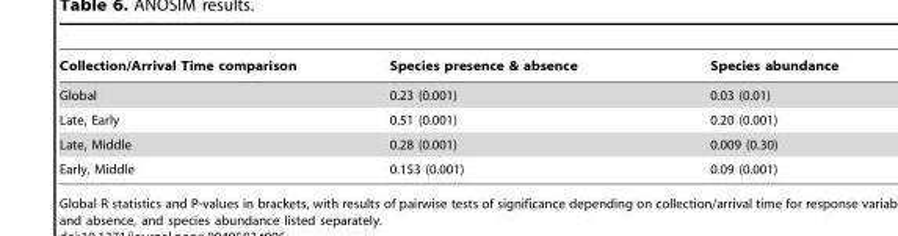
<table><thead><tr><td>Collection/Arrival Time comparison</td><td>Species presence &amp; absence</td><td>Species abundance</td></tr></thead><tbody><tr><td>Global</td><td>0.23 (0.001)</td><td>0.03 (0.01)</td></tr><tr><td>Late, Early</td><td>0.51 (0.001)</td><td>0.20 (0.001)</td></tr><tr><td>Late, Middle</td><td>0.28 (0.001)</td><td>0.009 (0.30)</td></tr><tr><td>Early, Middle</td><td>0.153 (0.001)</td><td>0.09 (0.001)</td></tr></tbody></table>